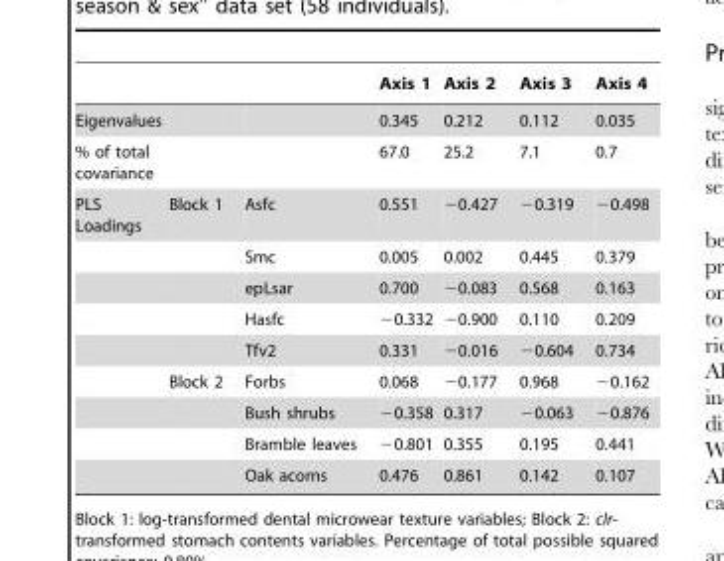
<table><thead><tr><td></td><td></td><td></td><td>Axis 1</td><td>Axis 2</td><td>Axis 3</td><td>Axis 4</td></tr></thead><tbody><tr><td>Eigenvalues</td><td></td><td></td><td>0.345</td><td>0.212</td><td>0.112</td><td>0.035</td></tr><tr><td>% of total covariance</td><td></td><td></td><td>67.0</td><td>25.2</td><td>7.1</td><td>0.7</td></tr><tr><td rowspan="9">PLS Loadings</td><td>Block 1</td><td>Asfc</td><td>0.551</td><td>−0.427</td><td>−0.319</td><td>−0.498</td></tr><tr><td></td><td>Smc</td><td>0.005</td><td>0.002</td><td>0.445</td><td>0.379</td></tr><tr><td></td><td>epLsar</td><td>0.700</td><td>−0.083</td><td>0.568</td><td>0.163</td></tr><tr><td></td><td>Hasfc</td><td>−0.332</td><td>−0.900</td><td>0.110</td><td>0.209</td></tr><tr><td></td><td>Tfv2</td><td>0.331</td><td>−0.016</td><td>−0.604</td><td>0.734</td></tr><tr><td>Block 2</td><td>Forbs</td><td>0.068</td><td>−0.177</td><td>0.968</td><td>−0.162</td></tr><tr><td></td><td>Bush shrubs</td><td>−0.358</td><td>0.317</td><td>−0.063</td><td>−0.876</td></tr><tr><td></td><td>Bramble leaves</td><td>−0.801</td><td>0.355</td><td>0.195</td><td>0.441</td></tr><tr><td></td><td>Oak acorns</td><td>0.476</td><td>0.861</td><td>0.142</td><td>0.107</td></tr></tbody></table>